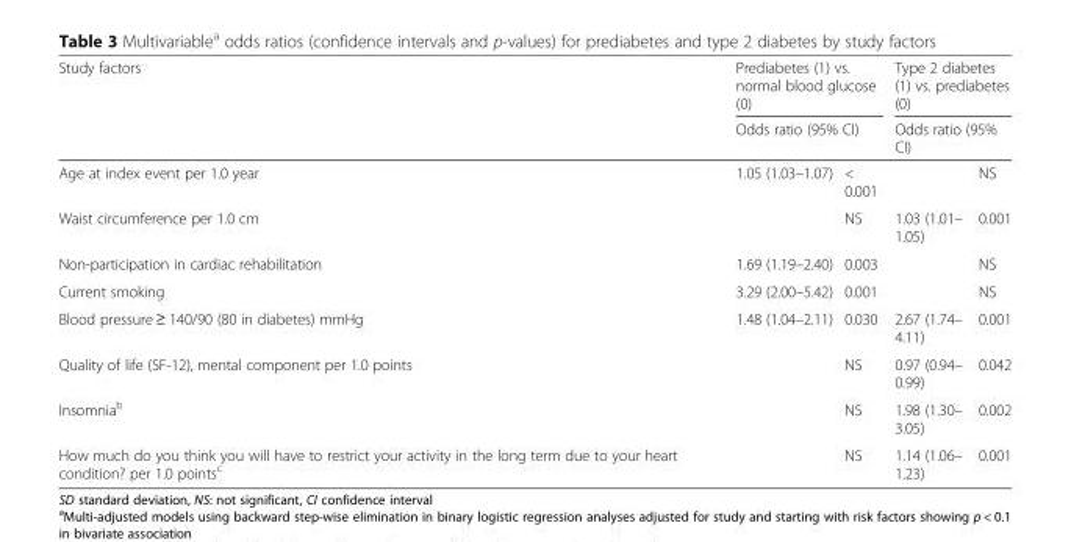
<table><thead><tr><td rowspan="3">Study factors Age at index event per 1.0 year</td><td rowspan="2" colspan="2">Prediabetes (1) vs. normal blood glucose (0) Odds ratio (95% CI)</td><td rowspan="2" colspan="2">Type 2 diabetes (1) vs. prediabetes (0) Odds ratio (95% CI)</td></tr><tr></tr><tr><td>1.05 (1.03–1.07)</td><td>&lt; 0.001</td><td></td><td>NS</td></tr></thead><tbody><tr><td>Waist circumference per 1.0 cm</td><td></td><td>NS</td><td>1.03 (1.01– 1.05)</td><td>0.001</td></tr><tr><td>Non-participation in cardiac rehabilitation</td><td>1.69 (1.19–2.40)</td><td>0.003</td><td></td><td>NS</td></tr><tr><td>Current smoking</td><td>3.29 (2.00–5.42)</td><td>0.001</td><td></td><td>NS</td></tr><tr><td>Blood pressure ≥ 140/90 (80 in diabetes) mmHg</td><td>1.48 (1.04–2.11)</td><td>0.030</td><td>2.67 (1.74– 4.11)</td><td>0.001</td></tr><tr><td>Quality of life (SF-12), mental component per 1.0 points</td><td></td><td>NS</td><td>0.97 (0.94– 0.99)</td><td>0.042</td></tr><tr><td>Insomnia<sup>b</sup></td><td></td><td>NS</td><td>1.98 (1.30– 3.05)</td><td>0.002</td></tr><tr><td>How much do you think you will have to restrict your activity in the long term due to your heart condition? per 1.0 points<sup>c</sup></td><td></td><td>NS</td><td>1.14 (1.06– 1.23)</td><td>0.001</td></tr></tbody></table>